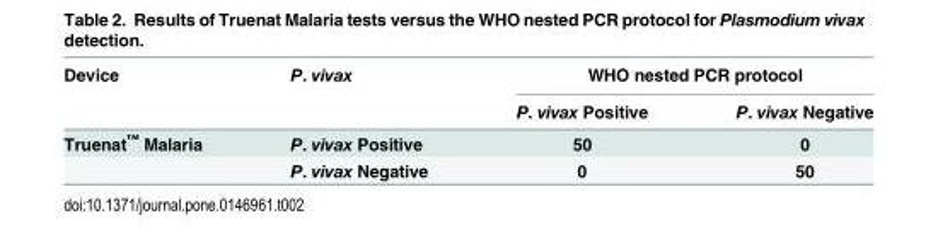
<table><thead><tr><td rowspan="2">Device</td><td rowspan="2">P. vivax</td><td colspan="2">WHO nested PCR protocol</td></tr><tr><td>P. vivax Positive</td><td>P. vivax Negative</td></tr></thead><tbody><tr><td rowspan="2">Truenat<sup>™</sup> Malaria</td><td>P. vivax Positive</td><td>50</td><td>0</td></tr><tr><td>P. vivax Negative</td><td>0</td><td>50</td></tr></tbody></table>